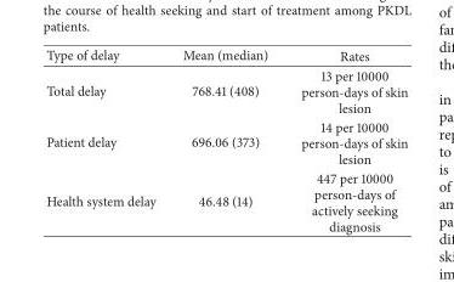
<table><thead><tr><td>Type of delay</td><td>Mean (median)</td><td>Rates</td></tr></thead><tbody><tr><td>Total delay</td><td>768.41 (408)</td><td>13 per 10000 person-days of skin lesion</td></tr><tr><td>Patient delay</td><td>696.06 (373)</td><td>14 per 10000 person-days of skin lesion</td></tr><tr><td>Health system delay</td><td>46.48 (14)</td><td>447 per 10000 person-days of actively seeking diagnosis</td></tr></tbody></table>